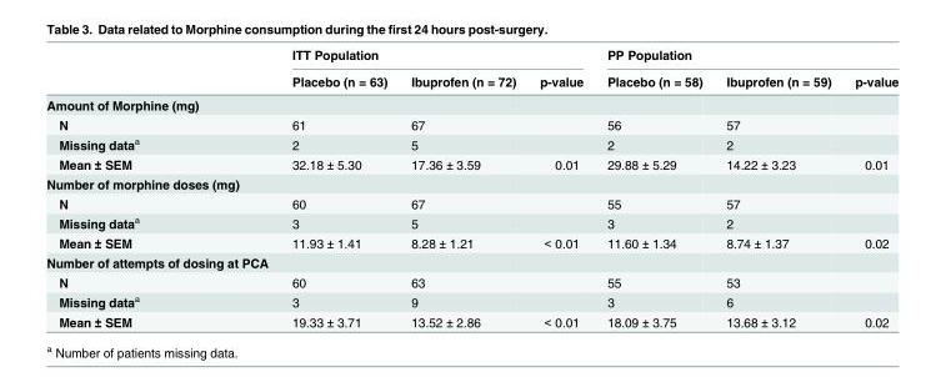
<table><thead><tr><td rowspan="2"></td><td colspan="3">ITT Population</td><td colspan="3">PP Population</td></tr><tr><td>Placebo (n = 63)</td><td>Ibuprofen (n = 72)</td><td>p-value</td><td>Placebo (n = 58)</td><td>Ibuprofen (n = 59)</td><td>p-value</td></tr></thead><tbody><tr><td colspan="7">Amount of Morphine (mg)</td></tr><tr><td>N</td><td>61</td><td>67</td><td></td><td>56</td><td>57</td><td></td></tr><tr><td>Missing data<sup>a</sup></td><td>2</td><td>5</td><td></td><td>2</td><td>2</td><td></td></tr><tr><td>Mean ± SEM</td><td>32.18 ± 5.30</td><td>17.36 ± 3.59</td><td>0.01</td><td>29.88 ± 5.29</td><td>14.22 ± 3.23</td><td>0.01</td></tr><tr><td colspan="7">Number of morphine doses (mg)</td></tr><tr><td>N</td><td>60</td><td>67</td><td></td><td>55</td><td>57</td><td></td></tr><tr><td>Missing data<sup>a</sup></td><td>3</td><td>5</td><td></td><td>3</td><td>2</td><td></td></tr><tr><td>Mean ± SEM</td><td>11.93 ± 1.41</td><td>8.28 ± 1.21</td><td>&lt; 0.01</td><td>11.60 ± 1.34</td><td>8.74 ± 1.37</td><td>0.02</td></tr><tr><td colspan="7">Number of attempts of dosing at PCA</td></tr><tr><td>N</td><td>60</td><td>63</td><td></td><td>55</td><td>53</td><td></td></tr><tr><td>Missing data<sup>a</sup></td><td>3</td><td>9</td><td></td><td>3</td><td>6</td><td></td></tr><tr><td>Mean ± SEM</td><td>19.33 ± 3.71</td><td>13.52 ± 2.86</td><td>&lt; 0.01</td><td>18.09 ± 3.75</td><td>13.68 ± 3.12</td><td>0.02</td></tr></tbody></table>